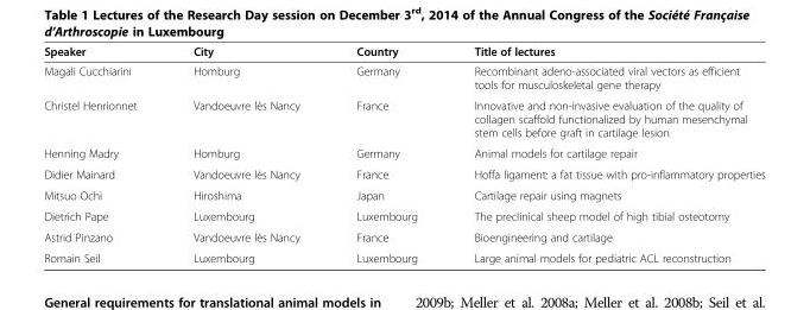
<table><thead><tr><td>Speaker</td><td>City</td><td>Country</td><td>Title of lectures</td></tr></thead><tbody><tr><td>Magali Cucchiarini</td><td>Homburg</td><td>Germany</td><td>Recombinant adeno-associated viral vectors as efficient tools for musculoskeletal gene therapy</td></tr><tr><td>Christel Henrionnet</td><td>Vandoeuvre lès Nancy</td><td>France</td><td>Innovative and non-invasive evaluation of the quality of collagen scaffold functionalized by human mesenchymal stem cells before graft in cartilage lesion</td></tr><tr><td>Henning Madry</td><td>Homburg</td><td>Germany</td><td>Animal models for cartilage repair</td></tr><tr><td>Didier Mainard</td><td>Vandoeuvre lès Nancy</td><td>France</td><td>Hoffa ligament: a fat tissue with pro-inflammatory properties</td></tr><tr><td>Mitsuo Ochi</td><td>Hiroshima</td><td>Japan</td><td>Cartilage repair using magnets</td></tr><tr><td>Dietrich Pape</td><td>Luxembourg</td><td>Luxembourg</td><td>The preclinical sheep model of high tibial osteotomy</td></tr><tr><td>Astrid Pinzano</td><td>Vandoeuvre lès Nancy</td><td>France</td><td>Bioengineering and cartilage</td></tr><tr><td>Romain Seil</td><td>Luxembourg</td><td>Luxembourg</td><td>Large animal models for pediatric ACL reconstruction</td></tr></tbody></table>